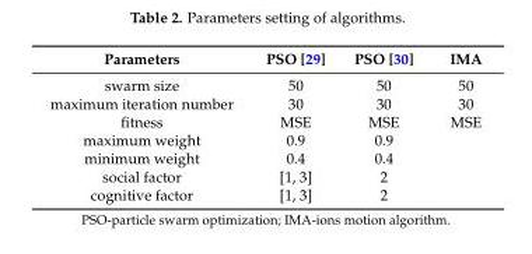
<table><thead><tr><td>Parameters</td><td>PSO [29]</td><td>PSO [30]</td><td>IMA</td></tr></thead><tbody><tr><td>swarm size</td><td>50</td><td>50</td><td>50</td></tr><tr><td>maximum iteration number</td><td>30</td><td>30</td><td>30</td></tr><tr><td>fitness</td><td>MSE</td><td>MSE</td><td>MSE</td></tr><tr><td>maximum weight</td><td>0.9</td><td>0.9</td><td></td></tr><tr><td>minimum weight</td><td>0.4</td><td>0.4</td><td></td></tr><tr><td>social factor</td><td>[1, 3]</td><td>2</td><td></td></tr><tr><td>cognitive factor</td><td>[1, 3]</td><td>2</td><td></td></tr></tbody></table>